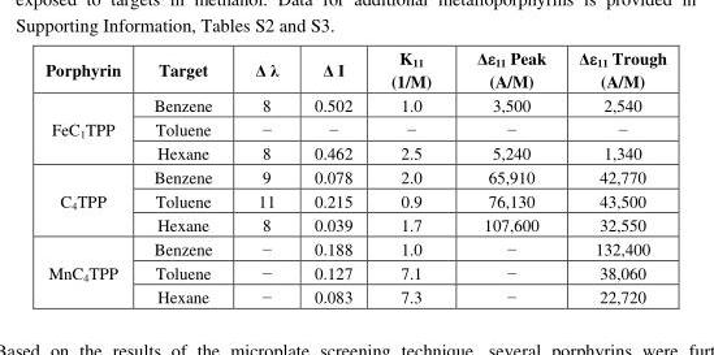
<table><thead><tr><td>Porphyrin</td><td>Target</td><td>Δ λ</td><td>Δ I</td><td>K<sub>11</sub> (1/M)</td><td>Δ′<sub>11</sub> Peak (A/M)</td><td>Δ′<sub>11</sub> Trough (A/M)</td></tr></thead><tbody><tr><td rowspan="3">FeC<sub>1</sub>TPP</td><td>Benzene</td><td>8</td><td>0.502</td><td>1.0</td><td>3,500</td><td>2,540</td></tr><tr><td>Toluene</td><td>−</td><td>−</td><td>−</td><td>−</td><td>−</td></tr><tr><td>Hexane</td><td>8</td><td>0.462</td><td>2.5</td><td>5,240</td><td>1,340</td></tr><tr><td rowspan="3">C<sub>4</sub>TPP</td><td>Benzene</td><td>9</td><td>0.078</td><td>2.0</td><td>65,910</td><td>42,770</td></tr><tr><td>Toluene</td><td>11</td><td>0.215</td><td>0.9</td><td>76,130</td><td>43,500</td></tr><tr><td>Hexane</td><td>8</td><td>0.039</td><td>1.7</td><td>107,600</td><td>32,550</td></tr><tr><td rowspan="3">MnC<sub>4</sub>TPP</td><td>Benzene</td><td>−</td><td>0.188</td><td>1.0</td><td>−</td><td>132,400</td></tr><tr><td>Toluene</td><td>−</td><td>0.127</td><td>7.1</td><td>−</td><td>38,060</td></tr><tr><td>Hexane</td><td>−</td><td>0.083</td><td>7.3</td><td>−</td><td>22,720</td></tr></tbody></table>